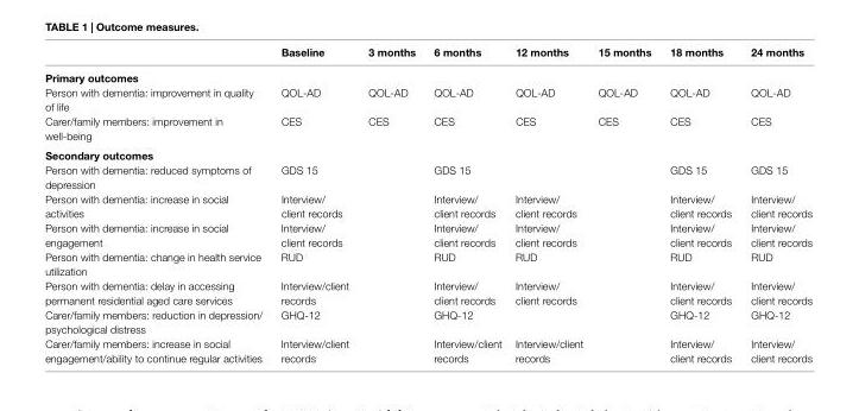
<table><thead><tr><td></td><td>Baseline</td><td>3 months</td><td>6 months</td><td>12 months</td><td>15 months</td><td>18 months</td><td>24 months</td></tr></thead><tbody><tr><td colspan="8">Primary outcomes</td></tr><tr><td>Person with dementia: improvement in quality of life</td><td>QOL-AD</td><td>QOL-AD</td><td>QOL-AD</td><td>QOL-AD</td><td>QOL-AD</td><td>QOL-AD</td><td>QOL-AD</td></tr><tr><td>Carer/family members: improvement in well-being</td><td>CES</td><td>CES</td><td>CES</td><td>CES</td><td>CES</td><td>CES</td><td>CES</td></tr><tr><td colspan="8">secondary outcomes</td></tr><tr><td>Person with dementia: reduced symptoms of depression</td><td>GDS 15</td><td></td><td>GDS 15</td><td></td><td></td><td>GDS 15</td><td>GDS 15</td></tr><tr><td>Person with dementia: increase in social activities</td><td>Interview/ client records</td><td></td><td>Interview/ client records</td><td>Interview/ client records</td><td></td><td>Interview/ client records</td><td>Interview/ client records</td></tr><tr><td>Person with dementia: increase in social engagement</td><td>Interview/ client records</td><td></td><td>Interview/ client records</td><td>Interview/ client records</td><td></td><td>Interview/ client records</td><td>Interview/ client records</td></tr><tr><td>Person with dementia: change in health service utilization</td><td>RUD</td><td></td><td>RUD</td><td>RUD</td><td></td><td>RUD</td><td>RUD</td></tr><tr><td>Person with dementia: delay in accessing permanent residential aged care services</td><td>Interview/client records</td><td></td><td>Interview/ client records</td><td>Interview/ client records</td><td></td><td>Interview/ client records</td><td>Interview/ client records</td></tr><tr><td>Carer/family members: reduction in depression/ psychological distress</td><td>GHQ-12</td><td></td><td>GHQ-12</td><td></td><td></td><td>GHQ-12</td><td>GHQ-12</td></tr><tr><td>Carer/family members: increase in social engagement/ability to continue regular activities</td><td>Interview/client records</td><td></td><td>Interview/client records</td><td>Interview/client records</td><td></td><td>Interview/ client records</td><td>Interview/ client records</td></tr></tbody></table>